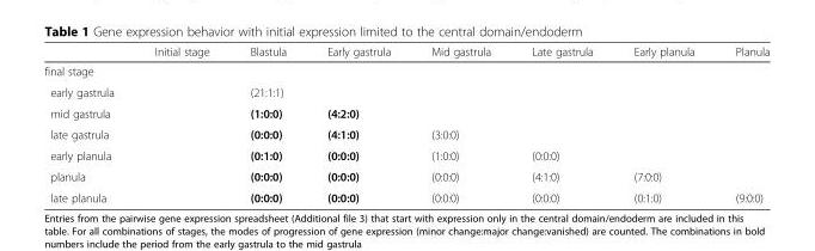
<table><thead><tr><td></td><td>Initial stage</td><td>Blastula</td><td>Early gastrula</td><td>Mid gastrula</td><td>Late gastrula</td><td>Early planula</td><td>Planula</td></tr></thead><tbody><tr><td colspan="8">final stage</td></tr><tr><td>early gastrula</td><td></td><td>(21:1:1)</td><td></td><td></td><td></td><td></td><td></td></tr><tr><td>mid gastrula</td><td></td><td>(1:0:0)</td><td>(4:2:0)</td><td></td><td></td><td></td><td></td></tr><tr><td>late gastrula</td><td></td><td>(0:0:0)</td><td>(4:1:0)</td><td>(3:0:0)</td><td></td><td></td><td></td></tr><tr><td>early planula</td><td></td><td>(0:1:0)</td><td>(0:0:0)</td><td>(1:0:0)</td><td>(0:0:0)</td><td></td><td></td></tr><tr><td>planula</td><td></td><td>(0:0:0)</td><td>(0:0:0)</td><td>(0:0:0)</td><td>(4:1:0)</td><td>(7:0:0)</td><td></td></tr><tr><td>late planula</td><td></td><td>(0:0:0)</td><td>(0:0:0)</td><td>(0:0:0)</td><td>(0:0:0)</td><td>(0:1:0)</td><td>(9:0:0)</td></tr></tbody></table>